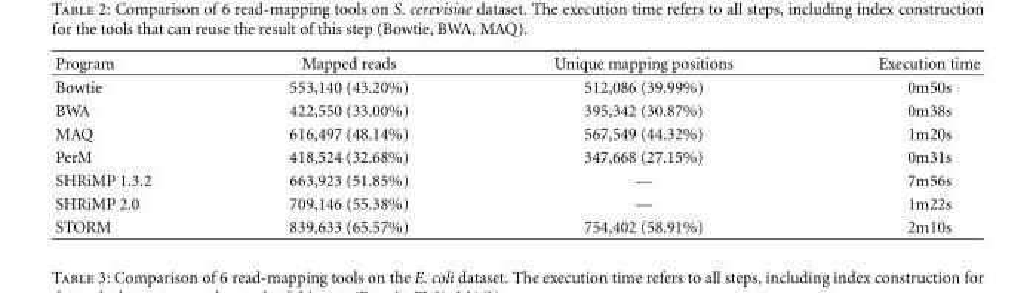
<table><thead><tr><td>Program</td><td>Mapped reads</td><td>Unique mapping positions</td><td>Execution time</td></tr></thead><tbody><tr><td>Bowtie</td><td>553,140 (43.20%)</td><td>512,086 (39.99%)</td><td>0m50s</td></tr><tr><td>BWA</td><td>422,550 (33.00%)</td><td>395,342 (30.87%)</td><td>0m38s</td></tr><tr><td>MAQ</td><td>616,497 (48.14%)</td><td>567,549 (44.32%)</td><td>1m20s</td></tr><tr><td>PerM</td><td>418,524 (32.68%)</td><td>347,668 (27.15%)</td><td>0m31s</td></tr><tr><td>SHRiMP 1.3.2</td><td>663,923 (51.85%)</td><td>—</td><td>7m56s</td></tr><tr><td>SHRiMP 2.0</td><td>709,146 (55.38%)</td><td>—</td><td>1m22s</td></tr><tr><td>STORM</td><td>839,633 (65.57%)</td><td>754,402 (58.91%)</td><td>2m10s</td></tr></tbody></table>